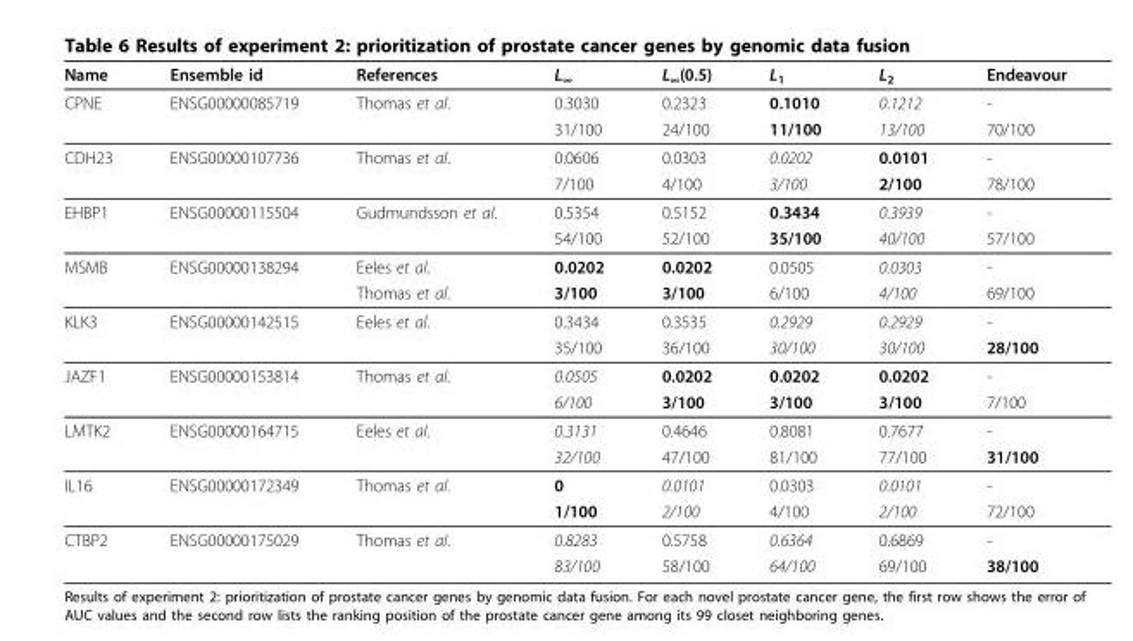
<table><thead><tr><td>Name</td><td>Ensemble id</td><td>References</td><td>L<sub>∞</sub></td><td>L<sub>∞</sub>(0.5)</td><td>L<sub>1</sub></td><td>L<sub>2</sub></td><td>Endeavour</td></tr></thead><tbody><tr><td rowspan="2">CPNE</td><td>ENSG00000085719</td><td>Thomas et al.</td><td>0.3030</td><td>0.2323</td><td>0.1010</td><td>0.1212</td><td>-</td></tr><tr><td></td><td></td><td>31/100</td><td>24/100</td><td>11/100</td><td>13/100</td><td>70/100</td></tr><tr><td rowspan="2">CDH23</td><td>ENSG00000107736</td><td>Thomas et al.</td><td>0.0606</td><td>0.0303</td><td>0.0202</td><td>0.0101</td><td>-</td></tr><tr><td></td><td></td><td>7/100</td><td>4/100</td><td>3/100</td><td>2/100</td><td>78/100</td></tr><tr><td rowspan="2">EHBP1</td><td>ENSG00000115504</td><td>Gudmundsson et al.</td><td>0.5354</td><td>0.5152</td><td>0.3434</td><td>0.3939</td><td>-</td></tr><tr><td></td><td></td><td>54/100</td><td>52/100</td><td>35/100</td><td>40/100</td><td>57/100</td></tr><tr><td rowspan="2">MSMB</td><td>ENSG00000138294</td><td>Eeles et al.</td><td>0.0202</td><td>0.0202</td><td>0.0505</td><td>0.0303</td><td>-</td></tr><tr><td></td><td>Thomas et al.</td><td>3/100</td><td>3/100</td><td>6/100</td><td>4/100</td><td>69/100</td></tr><tr><td rowspan="2">KLK3</td><td>ENSG00000142515</td><td>Eeles et al.</td><td>0.3434</td><td>0.3535</td><td>0.2929</td><td>0.2929</td><td>-</td></tr><tr><td></td><td></td><td>35/100</td><td>36/100</td><td>30/100</td><td>30/100</td><td>28/100</td></tr><tr><td rowspan="2">JAZF1</td><td>ENSG00000153814</td><td>Thomas et al.</td><td>0.0505</td><td>0.0202</td><td>0.0202</td><td>0.0202</td><td>-</td></tr><tr><td></td><td></td><td>6/100</td><td>3/100</td><td>3/100</td><td>3/100</td><td>7/100</td></tr><tr><td rowspan="2">LMTK2</td><td>ENSG00000164715</td><td>Eeles et al.</td><td>0.3131</td><td>0.4646</td><td>0.8081</td><td>0.7677</td><td>-</td></tr><tr><td></td><td></td><td>32/100</td><td>47/100</td><td>81/100</td><td>77/100</td><td>31/100</td></tr><tr><td rowspan="2">IL16</td><td>ENSG00000172349</td><td>Thomas et al.</td><td>0</td><td>0.0101</td><td>0.0303</td><td>0.0101</td><td>-</td></tr><tr><td></td><td></td><td>1/100</td><td>2/100</td><td>4/100</td><td>2/100</td><td>72/100</td></tr><tr><td rowspan="2">CTBP2</td><td>ENSG00000175029</td><td>Thomas et al.</td><td>0.8283</td><td>0.5758</td><td>0.6364</td><td>0.6869</td><td>-</td></tr><tr><td></td><td></td><td>83/100</td><td>58/100</td><td>64/100</td><td>69/100</td><td>38/100</td></tr></tbody></table>